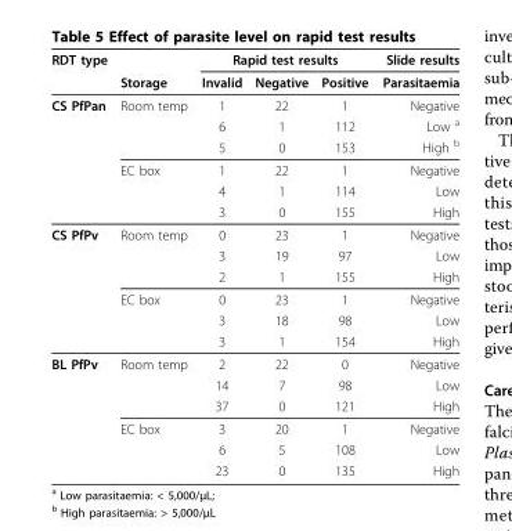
<table><thead><tr><td rowspan="2">RDT type</td><td rowspan="2">Storage</td><td colspan="3">Rapid test results</td><td rowspan="2">Slide results Parasitaemia</td></tr><tr><td>Invalid</td><td>Negative</td><td>Positive</td></tr></thead><tbody><tr><td rowspan="6">CS PfPan</td><td>Room temp</td><td>1</td><td>22</td><td>1</td><td>Negative</td></tr><tr><td></td><td>6</td><td>1</td><td>112</td><td>Low <sup>a</sup></td></tr><tr><td></td><td>5</td><td>0</td><td>153</td><td>High <sup>b</sup></td></tr><tr><td>EC box</td><td>1</td><td>22</td><td>1</td><td>Negative</td></tr><tr><td></td><td>4</td><td>1</td><td>114</td><td>Low</td></tr><tr><td></td><td>3</td><td>0</td><td>155</td><td>High</td></tr><tr><td rowspan="6">CS PfPv</td><td>Room temp</td><td>0</td><td>23</td><td>1</td><td>Negative</td></tr><tr><td></td><td>3</td><td>19</td><td>97</td><td>Low</td></tr><tr><td></td><td>2</td><td>1</td><td>155</td><td>High</td></tr><tr><td>EC box</td><td>0</td><td>23</td><td>1</td><td>Negative</td></tr><tr><td></td><td>3</td><td>18</td><td>98</td><td>Low</td></tr><tr><td></td><td>3</td><td>1</td><td>154</td><td>High</td></tr><tr><td rowspan="6">BL PfPv</td><td>Room temp</td><td>2</td><td>22</td><td>0</td><td>Negative</td></tr><tr><td></td><td>14</td><td>7</td><td>98</td><td>Low</td></tr><tr><td></td><td>37</td><td>0</td><td>121</td><td>High</td></tr><tr><td>EC box</td><td>3</td><td>20</td><td>1</td><td>Negative</td></tr><tr><td></td><td>6</td><td>5</td><td>108</td><td>Low</td></tr><tr><td></td><td>23</td><td>0</td><td>135</td><td>High</td></tr></tbody></table>